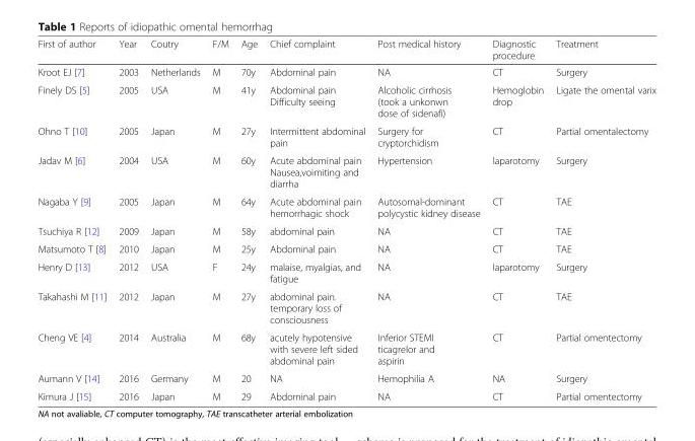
<table><thead><tr><td>First of author</td><td>Year</td><td>Coutry</td><td>F/M</td><td>Age</td><td>Chief complaint</td><td>Post medical history</td><td>Diagnostic procedure</td><td>Treatment</td></tr></thead><tbody><tr><td>Kroot EJ [7]</td><td>2003</td><td>Netherlands</td><td>M</td><td>70y</td><td>Abdominal pain</td><td>NA</td><td>CT</td><td>Surgery</td></tr><tr><td>Finely DS [5]</td><td>2005</td><td>USA</td><td>M</td><td>41y</td><td>Abdominal pain Difficulty seeing</td><td>Alcoholic cirrhosis (took a unkonwn dose of sidenafi)</td><td>Hemoglobin drop</td><td>Ligate the omental varix</td></tr><tr><td>Ohno T [10]</td><td>2005</td><td>Japan</td><td>M</td><td>27y</td><td>Intermittent abdominal pain</td><td>Surgery for cryptorchidism</td><td>CT</td><td>Partial omentalectomy</td></tr><tr><td>Jadav M [6]</td><td>2004</td><td>USA</td><td>M</td><td>60y</td><td>Acute abdominal pain Nausea,voimiting and diarrha</td><td>Hypertension</td><td>laparotomy</td><td>Surgery</td></tr><tr><td>Nagaba Y [9]</td><td>2005</td><td>Japan</td><td>M</td><td>64y</td><td>Acute abdominal pain hemorrhagic shock</td><td>Autosomal-dominant polycystic kidney disease</td><td>CT</td><td>TAE</td></tr><tr><td>Tsuchiya R [12]</td><td>2009</td><td>Japan</td><td>M</td><td>58y</td><td>abdominal pain</td><td>NA</td><td>CT</td><td>TAE</td></tr><tr><td>Matsumoto T [8]</td><td>2010</td><td>Japan</td><td>M</td><td>25y</td><td>Abdominal pain</td><td>NA</td><td>CT</td><td>TAE</td></tr><tr><td>Henry D [13]</td><td>2012</td><td>USA</td><td>F</td><td>24y</td><td>malaise, myalgias, and fatigue</td><td>NA</td><td>laparotomy</td><td>Surgery</td></tr><tr><td>Takahashi M [11]</td><td>2012</td><td>Japan</td><td>M</td><td>27y</td><td>abdominal pain. temporary loss of consciousness</td><td>NA</td><td>CT</td><td>TAE</td></tr><tr><td>Cheng VE [4]</td><td>2014</td><td>Australia</td><td>M</td><td>68y</td><td>acutely hypotensive with severe left sided abdominal pain</td><td>Inferior STEMI ticagrelor and aspirin</td><td>CT</td><td>Partial omentectomy</td></tr><tr><td>Aumann V [14]</td><td>2016</td><td>Germany</td><td>M</td><td>20</td><td>NA</td><td>Hemophilia A</td><td>NA</td><td>Surgery</td></tr><tr><td>Kimura J [15]</td><td>2016</td><td>Japan</td><td>M</td><td>29</td><td>Abdominal pain</td><td>NA</td><td>CT</td><td>Partial omentectomy</td></tr></tbody></table>